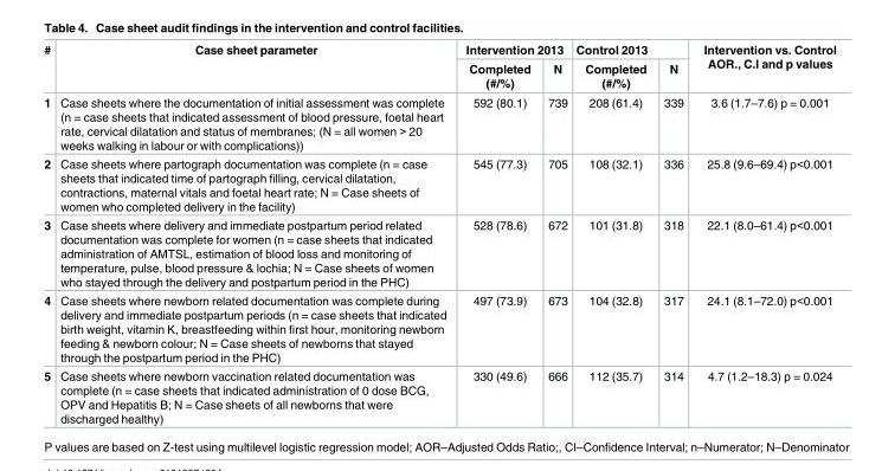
<table><thead><tr><td rowspan="2">#</td><td rowspan="2">Case sheet parameter</td><td colspan="2">Intervention 2013</td><td colspan="2">Control 2013</td><td rowspan="2">Intervention vs. Control AOR., C.I and p values</td></tr><tr><td>Completed (#/%)</td><td>N</td><td>Completed (#/%)</td><td>N</td></tr></thead><tbody><tr><td>1</td><td>Case sheets where the documentation of initial assessment was complete (n = case sheets that indicated assessment of blood pressure, foetal heart rate, cervical dilatation and status of membranes; (N = all women &gt; 20 weeks walking in labour or with complications))</td><td>592 (80.1)</td><td>739</td><td>208 (61.4)</td><td>339</td><td>3.6 (1.7–7.6) p = 0.001</td></tr><tr><td>2</td><td>Case sheets where partograph documentation was complete (n = case sheets that indicated time of partograph filling, cervical dilatation, contractions, maternal vitals and foetal heart rate; N = Case sheets of women who completed delivery in the facility)</td><td>545 (77.3)</td><td>705</td><td>108 (32.1)</td><td>336</td><td>25.8 (9.6–69.4) p&lt;0.001</td></tr><tr><td>3</td><td>Case sheets where delivery and immediate postpartum period related documentation was complete for women (n = case sheets that indicated administration of AMTSL, estimation of blood loss and monitoring of temperature, pulse, blood pressure &amp; lochia; N = Case sheets of women who stayed through the delivery and postpartum period in the PHC)</td><td>528 (78.6)</td><td>672</td><td>101 (31.8)</td><td>318</td><td>22.1 (8.0–61.4) p&lt;0.001</td></tr><tr><td>4</td><td>Case sheets where newborn related documentation was complete during delivery and immediate postpartum periods (n = case sheets that indicated birth weight, vitamin K, breastfeeding within first hour, monitoring newborn feeding &amp; newborn colour; N = Case sheets of newborns that stayed through the postpartum period in the PHC)</td><td>497 (73.9)</td><td>673</td><td>104 (32.8)</td><td>317</td><td>24.1 (8.1–72.0) p&lt;0.001</td></tr><tr><td>5</td><td>Case sheets where newborn vaccination related documentation was complete (n = case sheets that indicated administration of 0 dose BCG, OPV and Hepatitis B; N = Case sheets of all newborns that were discharged healthy)</td><td>330 (49.6)</td><td>666</td><td>112 (35.7)</td><td>314</td><td>4.7 (1.2–18.3) p = 0.024</td></tr></tbody></table>